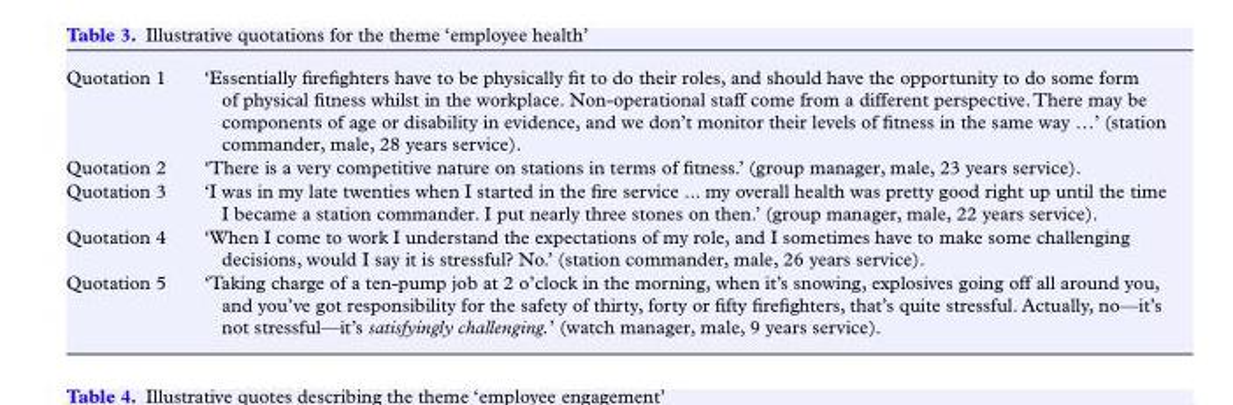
<table><tbody><tr><td>Quotation 1</td><td>‘Essentially firefighters have to be physically fit to do their roles, and should have the opportunity to do some form of physical fitness whilst in the workplace. Non-operational staff come from a different perspective. There may be components of age or disability in evidence, and we don’t monitor their levels of fitness in the same way …’ (station commander, male, 28 years service).</td></tr><tr><td>Quotation 2</td><td>‘There is a very competitive nature on stations in terms of fitness.’ (group manager, male, 23 years service).</td></tr><tr><td>Quotation 3</td><td>‘I was in my late twenties when I started in the fire service ... my overall health was pretty good right up until the time I became a station commander. I put nearly three stones on then.’ (group manager, male, 22 years service).</td></tr><tr><td>Quotation 4</td><td>‘When I come to work I understand the expectations of my role, and I sometimes have to make some challenging decisions, would I say it is stressful? No.’ (station commander, male, 26 years service).</td></tr><tr><td>Quotation 5</td><td>‘Taking charge of a ten-pump job at 2 o’clock in the morning, when it’s snowing, explosives going off all around you, and you’ve got responsibility for the safety of thirty, forty or fifty firefighters, that’s quite stressful. Actually, no—it’s not stressful—it’s satisfyingly challenging.’ (watch manager, male, 9 years service).</td></tr></tbody></table>